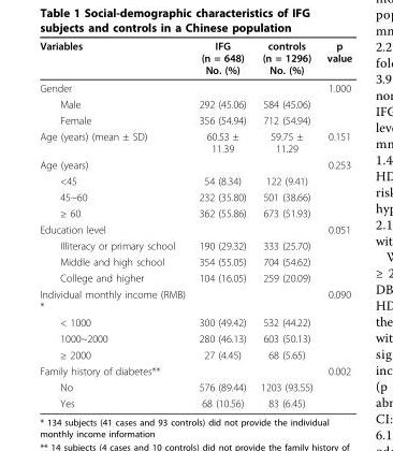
<table><thead><tr><td>Variables</td><td>IFG (n = 648) No. (%)</td><td>controls (n = 1296) No. (%)</td><td>p value</td></tr></thead><tbody><tr><td>Gender</td><td></td><td></td><td>1.000</td></tr><tr><td>Male</td><td>292 (45.06)</td><td>584 (45.06)</td><td></td></tr><tr><td>Female</td><td>356 (54.94)</td><td>712 (54.94)</td><td></td></tr><tr><td>Age (years) (mean ± SD)</td><td>60.53 ± 11.39</td><td>59.75 ± 11.29</td><td>0.151</td></tr><tr><td>Age (years)</td><td></td><td></td><td>0.253</td></tr><tr><td>&lt;45</td><td>54 (8.34)</td><td>122 (9.41)</td><td></td></tr><tr><td>45~60</td><td>232 (35.80)</td><td>501 (38.66)</td><td></td></tr><tr><td>≥ 60</td><td>362 (55.86)</td><td>673 (51.93)</td><td></td></tr><tr><td>Education level</td><td></td><td></td><td>0.051</td></tr><tr><td>Illiteracy or primary school</td><td>190 (29.32)</td><td>333 (25.70)</td><td></td></tr><tr><td>Middle and high school</td><td>354 (55.05)</td><td>704 (54.62)</td><td></td></tr><tr><td>College and higher</td><td>104 (16.05)</td><td>259 (20.09)</td><td></td></tr><tr><td>Individual monthly income (RMB) *</td><td></td><td></td><td>0.090</td></tr><tr><td>&lt; 1000</td><td>300 (49.42)</td><td>532 (44.22)</td><td></td></tr><tr><td>1000~2000</td><td>280 (46.13)</td><td>603 (50.13)</td><td></td></tr><tr><td>≥ 2000</td><td>27 (4.45)</td><td>68 (5.65)</td><td></td></tr><tr><td>Family history of diabetes**</td><td></td><td></td><td>0.002</td></tr><tr><td>No</td><td>576 (89.44)</td><td>1203 (93.55)</td><td></td></tr><tr><td>Yes</td><td>68 (10.56)</td><td>83 (6.45)</td><td></td></tr></tbody></table>